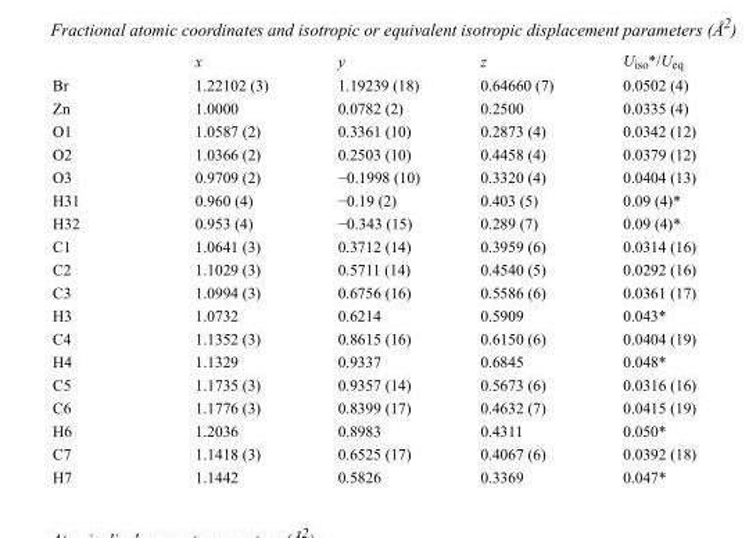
<table><thead><tr><td></td><td>x</td><td>y</td><td>z</td><td>U<sub>iso</sub>*/U<sub>eq</sub></td></tr></thead><tbody><tr><td>Br</td><td>1.22102 (3)</td><td>1.19239 (18)</td><td>0.64660 (7)</td><td>0.0502 (4)</td></tr><tr><td>Zn</td><td>1.0000</td><td>0.0782 (2)</td><td>0.2500</td><td>0.0335 (4)</td></tr><tr><td>O1</td><td>1.0587 (2)</td><td>0.3361 (10)</td><td>0.2873 (4)</td><td>0.0342 (12)</td></tr><tr><td>O2</td><td>1.0366 (2)</td><td>0.2503 (10)</td><td>0.4458 (4)</td><td>0.0379 (12)</td></tr><tr><td>O3</td><td>0.9709 (2)</td><td>−0.1998 (10)</td><td>0.3320 (4)</td><td>0.0404 (13)</td></tr><tr><td>H31</td><td>0.960 (4)</td><td>−0.19 (2)</td><td>0.403 (5)</td><td>0.09 (4)*</td></tr><tr><td>H32</td><td>0.953 (4)</td><td>−0.343 (15)</td><td>0.289 (7)</td><td>0.09 (4)*</td></tr><tr><td>C1</td><td>1.0641 (3)</td><td>0.3712 (14)</td><td>0.3959 (6)</td><td>0.0314 (16)</td></tr><tr><td>C2</td><td>1.1029 (3)</td><td>0.5711 (14)</td><td>0.4540 (5)</td><td>0.0292 (16)</td></tr><tr><td>C3</td><td>1.0994 (3)</td><td>0.6756 (16)</td><td>0.5586 (6)</td><td>0.0361 (17)</td></tr><tr><td>H3</td><td>1.0732</td><td>0.6214</td><td>0.5909</td><td>0.043*</td></tr><tr><td>C4</td><td>1.1352 (3)</td><td>0.8615 (16)</td><td>0.6150 (6)</td><td>0.0404 (19)</td></tr><tr><td>H4</td><td>1.1329</td><td>0.9337</td><td>0.6845</td><td>0.048*</td></tr><tr><td>C5</td><td>1.1735 (3)</td><td>0.9357 (14)</td><td>0.5673 (6)</td><td>0.0316 (16)</td></tr><tr><td>C6</td><td>1.1776 (3)</td><td>0.8399 (17)</td><td>0.4632 (7)</td><td>0.0415 (19)</td></tr><tr><td>H6</td><td>1.2036</td><td>0.8983</td><td>0.4311</td><td>0.050*</td></tr><tr><td>C7</td><td>1.1418 (3)</td><td>0.6525 (17)</td><td>0.4067 (6)</td><td>0.0392 (18)</td></tr><tr><td>H7</td><td>1.1442</td><td>0.5826</td><td>0.3369</td><td>0.047*</td></tr></tbody></table>